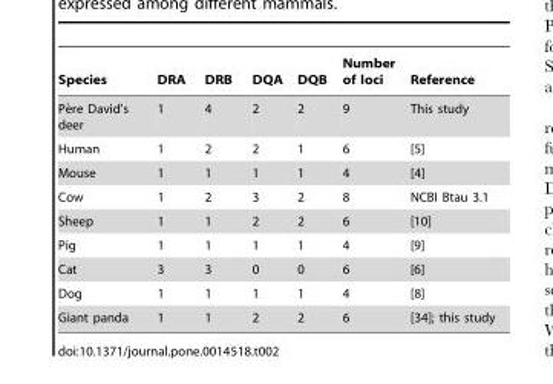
<table><thead><tr><td>Species</td><td>DRA</td><td>DRB</td><td>DQA</td><td>DQB</td><td>Number of loci</td><td>Reference</td></tr></thead><tbody><tr><td>Pe`re David’s deer</td><td>1</td><td>4</td><td>2</td><td>2</td><td>9</td><td>This study</td></tr><tr><td>Human</td><td>1</td><td>2</td><td>2</td><td>1</td><td>6</td><td>[5]</td></tr><tr><td>Mouse</td><td>1</td><td>1</td><td>1</td><td>1</td><td>4</td><td>[4]</td></tr><tr><td>Cow</td><td>1</td><td>2</td><td>3</td><td>2</td><td>8</td><td>NCBI Btau 3.1</td></tr><tr><td>Sheep</td><td>1</td><td>1</td><td>2</td><td>2</td><td>6</td><td>[10]</td></tr><tr><td>Pig</td><td>1</td><td>1</td><td>1</td><td>1</td><td>4</td><td>[9]</td></tr><tr><td>Cat</td><td>3</td><td>3</td><td>0</td><td>0</td><td>6</td><td>[6]</td></tr><tr><td>Dog</td><td>1</td><td>1</td><td>1</td><td>1</td><td>4</td><td>[8]</td></tr><tr><td>Giant panda</td><td>1</td><td>1</td><td>2</td><td>2</td><td>6</td><td>[34]; this study</td></tr></tbody></table>